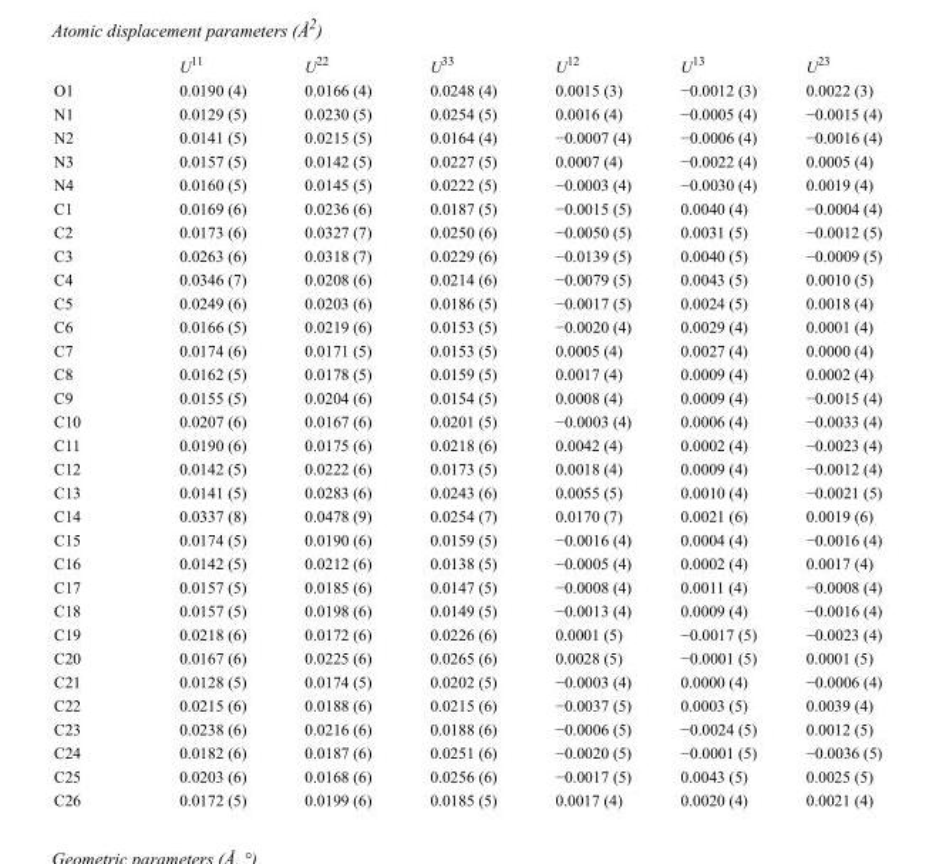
<table><thead><tr><td></td><td>U<sup>11</sup></td><td>U<sup>22</sup></td><td>U<sup>33</sup></td><td>U<sup>12</sup></td><td>U<sup>13</sup></td><td>U<sup>23</sup></td></tr></thead><tbody><tr><td>O1</td><td>0.0190 (4)</td><td>0.0166 (4)</td><td>0.0248 (4)</td><td>0.0015 (3)</td><td>−0.0012 (3)</td><td>0.0022 (3)</td></tr><tr><td>N1</td><td>0.0129 (5)</td><td>0.0230 (5)</td><td>0.0254 (5)</td><td>0.0016 (4)</td><td>−0.0005 (4)</td><td>−0.0015 (4)</td></tr><tr><td>N2</td><td>0.0141 (5)</td><td>0.0215 (5)</td><td>0.0164 (4)</td><td>−0.0007 (4)</td><td>−0.0006 (4)</td><td>−0.0016 (4)</td></tr><tr><td>N3</td><td>0.0157 (5)</td><td>0.0142 (5)</td><td>0.0227 (5)</td><td>0.0007 (4)</td><td>−0.0022 (4)</td><td>0.0005 (4)</td></tr><tr><td>N4</td><td>0.0160 (5)</td><td>0.0145 (5)</td><td>0.0222 (5)</td><td>−0.0003 (4)</td><td>−0.0030 (4)</td><td>0.0019 (4)</td></tr><tr><td>C1</td><td>0.0169 (6)</td><td>0.0236 (6)</td><td>0.0187 (5)</td><td>−0.0015 (5)</td><td>0.0040 (4)</td><td>−0.0004 (4)</td></tr><tr><td>C2</td><td>0.0173 (6)</td><td>0.0327 (7)</td><td>0.0250 (6)</td><td>−0.0050 (5)</td><td>0.0031 (5)</td><td>−0.0012 (5)</td></tr><tr><td>C3</td><td>0.0263 (6)</td><td>0.0318 (7)</td><td>0.0229 (6)</td><td>−0.0139 (5)</td><td>0.0040 (5)</td><td>−0.0009 (5)</td></tr><tr><td>C4</td><td>0.0346 (7)</td><td>0.0208 (6)</td><td>0.0214 (6)</td><td>−0.0079 (5)</td><td>0.0043 (5)</td><td>0.0010 (5)</td></tr><tr><td>C5</td><td>0.0249 (6)</td><td>0.0203 (6)</td><td>0.0186 (5)</td><td>−0.0017 (5)</td><td>0.0024 (5)</td><td>0.0018 (4)</td></tr><tr><td>C6</td><td>0.0166 (5)</td><td>0.0219 (6)</td><td>0.0153 (5)</td><td>−0.0020 (4)</td><td>0.0029 (4)</td><td>0.0001 (4)</td></tr><tr><td>C7</td><td>0.0174 (6)</td><td>0.0171 (5)</td><td>0.0153 (5)</td><td>0.0005 (4)</td><td>0.0027 (4)</td><td>0.0000 (4)</td></tr><tr><td>C8</td><td>0.0162 (5)</td><td>0.0178 (5)</td><td>0.0159 (5)</td><td>0.0017 (4)</td><td>0.0009 (4)</td><td>0.0002 (4)</td></tr><tr><td>C9</td><td>0.0155 (5)</td><td>0.0204 (6)</td><td>0.0154 (5)</td><td>0.0008 (4)</td><td>0.0009 (4)</td><td>−0.0015 (4)</td></tr><tr><td>C10</td><td>0.0207 (6)</td><td>0.0167 (6)</td><td>0.0201 (5)</td><td>−0.0003 (4)</td><td>0.0006 (4)</td><td>−0.0033 (4)</td></tr><tr><td>C11</td><td>0.0190 (6)</td><td>0.0175 (6)</td><td>0.0218 (6)</td><td>0.0042 (4)</td><td>0.0002 (4)</td><td>−0.0023 (4)</td></tr><tr><td>C12</td><td>0.0142 (5)</td><td>0.0222 (6)</td><td>0.0173 (5)</td><td>0.0018 (4)</td><td>0.0009 (4)</td><td>−0.0012 (4)</td></tr><tr><td>C13</td><td>0.0141 (5)</td><td>0.0283 (6)</td><td>0.0243 (6)</td><td>0.0055 (5)</td><td>0.0010 (4)</td><td>−0.0021 (5)</td></tr><tr><td>C14</td><td>0.0337 (8)</td><td>0.0478 (9)</td><td>0.0254 (7)</td><td>0.0170 (7)</td><td>0.0021 (6)</td><td>0.0019 (6)</td></tr><tr><td>C15</td><td>0.0174 (5)</td><td>0.0190 (6)</td><td>0.0159 (5)</td><td>−0.0016 (4)</td><td>0.0004 (4)</td><td>−0.0016 (4)</td></tr><tr><td>C16</td><td>0.0142 (5)</td><td>0.0212 (6)</td><td>0.0138 (5)</td><td>−0.0005 (4)</td><td>0.0002 (4)</td><td>0.0017 (4)</td></tr><tr><td>C17</td><td>0.0157 (5)</td><td>0.0185 (6)</td><td>0.0147 (5)</td><td>−0.0008 (4)</td><td>0.0011 (4)</td><td>−0.0008 (4)</td></tr><tr><td>C18</td><td>0.0157 (5)</td><td>0.0198 (6)</td><td>0.0149 (5)</td><td>−0.0013 (4)</td><td>0.0009 (4)</td><td>−0.0016 (4)</td></tr><tr><td>C19</td><td>0.0218 (6)</td><td>0.0172 (6)</td><td>0.0226 (6)</td><td>0.0001 (5)</td><td>−0.0017 (5)</td><td>−0.0023 (4)</td></tr><tr><td>C20</td><td>0.0167 (6)</td><td>0.0225 (6)</td><td>0.0265 (6)</td><td>0.0028 (5)</td><td>−0.0001 (5)</td><td>0.0001 (5)</td></tr><tr><td>C21</td><td>0.0128 (5)</td><td>0.0174 (5)</td><td>0.0202 (5)</td><td>−0.0003 (4)</td><td>0.0000 (4)</td><td>−0.0006 (4)</td></tr><tr><td>C22</td><td>0.0215 (6)</td><td>0.0188 (6)</td><td>0.0215 (6)</td><td>−0.0037 (5)</td><td>0.0003 (5)</td><td>0.0039 (4)</td></tr><tr><td>C23</td><td>0.0238 (6)</td><td>0.0216 (6)</td><td>0.0188 (6)</td><td>−0.0006 (5)</td><td>−0.0024 (5)</td><td>0.0012 (5)</td></tr><tr><td>C24</td><td>0.0182 (6)</td><td>0.0187 (6)</td><td>0.0251 (6)</td><td>−0.0020 (5)</td><td>−0.0001 (5)</td><td>−0.0036 (5)</td></tr><tr><td>C25</td><td>0.0203 (6)</td><td>0.0168 (6)</td><td>0.0256 (6)</td><td>−0.0017 (5)</td><td>0.0043 (5)</td><td>0.0025 (5)</td></tr><tr><td>C26</td><td>0.0172 (5)</td><td>0.0199 (6)</td><td>0.0185 (5)</td><td>0.0017 (4)</td><td>0.0020 (4)</td><td>0.0021 (4)</td></tr></tbody></table>